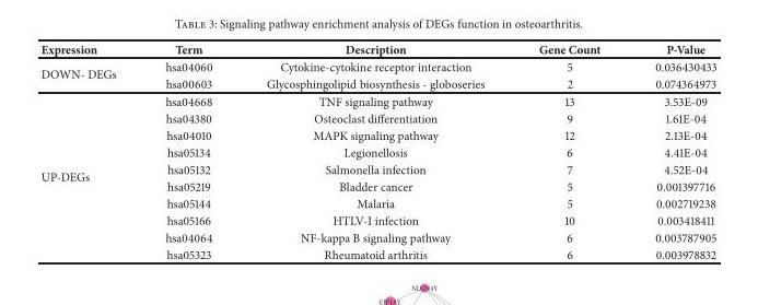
<table><thead><tr><td>Expression</td><td>Term</td><td>Description</td><td>Gene Count</td><td>P-Value</td></tr></thead><tbody><tr><td rowspan="2">DOWN- DEGs</td><td>hsa04060</td><td>Cytokine-cytokine receptor interaction</td><td>5</td><td>0.036430433</td></tr><tr><td>hsa00603</td><td>Glycosphingolipid biosynthesis - globoseries</td><td>2</td><td>0.074364973</td></tr><tr><td rowspan="10">UP-DEGs</td><td>hsa04668</td><td>TNF signaling pathway</td><td>13</td><td>3.53E-09</td></tr><tr><td>hsa04380</td><td>Osteoclast differentiation</td><td>9</td><td>1.61E-04</td></tr><tr><td>hsa04010</td><td>MAPK signaling pathway</td><td>12</td><td>2.13E-04</td></tr><tr><td>hsa05134</td><td>Legionellosis</td><td>6</td><td>4.41E-04</td></tr><tr><td>hsa05132</td><td>Salmonella infection</td><td>7</td><td>4.52E-04</td></tr><tr><td>hsa05219</td><td>Bladder cancer</td><td>5</td><td>0.001397716</td></tr><tr><td>hsa05144</td><td>Malaria</td><td>5</td><td>0.002719238</td></tr><tr><td>hsa05166</td><td>HTLV-I infection</td><td>10</td><td>0.003418411</td></tr><tr><td>hsa04064</td><td>NF-kappa B signaling pathway</td><td>6</td><td>0.003787905</td></tr><tr><td>hsa05323</td><td>Rheumatoid arthritis</td><td>6</td><td>0.003978832</td></tr></tbody></table>